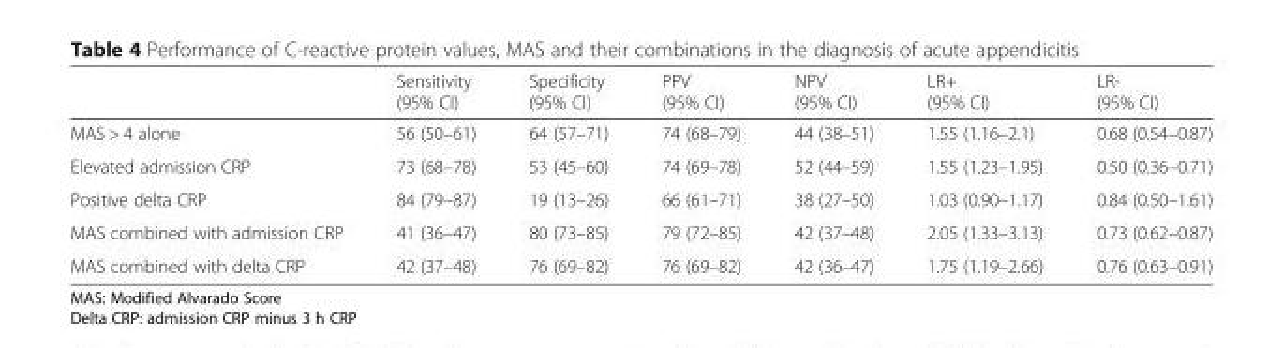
<table><thead><tr><td></td><td>Sensitivity (95% CI)</td><td>Specificity (95% CI)</td><td>PPV (95% CI)</td><td>NPV (95% CI)</td><td>LR+ (95% CI)</td><td>LR- (95% CI)</td></tr></thead><tbody><tr><td>MAS &gt; 4 alone</td><td>56 (50–61)</td><td>64 (57–71)</td><td>74 (68–79)</td><td>44 (38–51)</td><td>1.55 (1.16–2.1)</td><td>0.68 (0.54–0.87)</td></tr><tr><td>Elevated admission CRP</td><td>73 (68–78)</td><td>53 (45–60)</td><td>74 (69–78)</td><td>52 (44–59)</td><td>1.55 (1.23–1.95)</td><td>0.50 (0.36–0.71)</td></tr><tr><td>Positive delta CRP</td><td>84 (79–87)</td><td>19 (13–26)</td><td>66 (61–71)</td><td>38 (27–50)</td><td>1.03 (0.90–1.17)</td><td>0.84 (0.50–1.61)</td></tr><tr><td>MAS combined with admission CRP</td><td>41 (36–47)</td><td>80 (73–85)</td><td>79 (72–85)</td><td>42 (37–48)</td><td>2.05 (1.33–3.13)</td><td>0.73 (0.62–0.87)</td></tr><tr><td>MAS combined with delta CRP</td><td>42 (37–48)</td><td>76 (69–82)</td><td>76 (69–82)</td><td>42 (36–47)</td><td>1.75 (1.19–2.66)</td><td>0.76 (0.63–0.91)</td></tr></tbody></table>